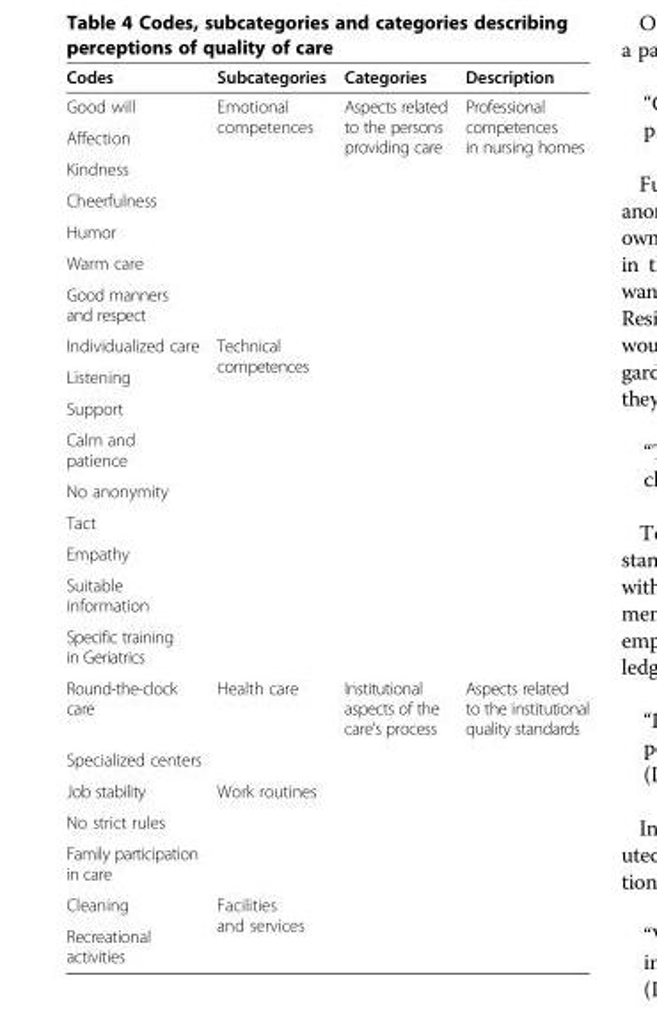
<table><thead><tr><td>Codes</td><td>Subcategories</td><td>Categories</td><td>Description</td></tr></thead><tbody><tr><td>Good will</td><td rowspan="7">Emotional competences</td><td rowspan="7">Aspects related to the persons providing care</td><td rowspan="7">Professional competences in nursing homes</td></tr><tr><td>Affection</td></tr><tr><td>Kindness</td></tr><tr><td>Cheerfulness</td></tr><tr><td>Humor</td></tr><tr><td>Warm care</td></tr><tr><td>Good manners and respect</td></tr><tr><td>Individualized care</td><td rowspan="9">Technical competences</td><td rowspan="9"></td><td rowspan="9"></td></tr><tr><td>Listening</td></tr><tr><td>Support</td></tr><tr><td>Calm and patience</td></tr><tr><td>No anonymity</td></tr><tr><td>Tact</td></tr><tr><td>Empathy</td></tr><tr><td>Suitable information</td></tr><tr><td>Specific training in Geriatrics</td></tr><tr><td>Round-the-clock care</td><td>Health care</td><td>Institutional aspects of the care’s process</td><td>Aspects related to the institutional quality standards</td></tr><tr><td colspan="4">Specialized centers</td></tr><tr><td>Job stability</td><td rowspan="3">Work routines</td><td rowspan="5"></td><td rowspan="5"></td></tr><tr><td>No strict rules</td></tr><tr><td>Family participation in care</td></tr><tr><td>Cleaning</td><td rowspan="2">Facilities and services</td></tr><tr><td>Recreational activities</td></tr></tbody></table>